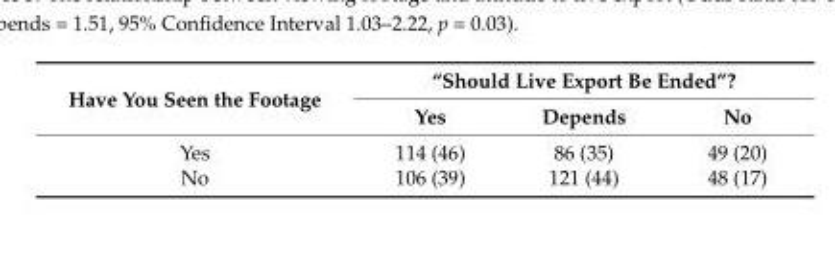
<table><thead><tr><td rowspan="2">Have You Seen the Footage</td><td colspan="3">“Should Live Export Be Ended”?</td></tr><tr><td>Yes</td><td>Depends</td><td>No</td></tr></thead><tbody><tr><td>Yes</td><td>114 (46)</td><td>86 (35)</td><td>49 (20)</td></tr><tr><td>No</td><td>106 (39)</td><td>121 (44)</td><td>48 (17)</td></tr></tbody></table>